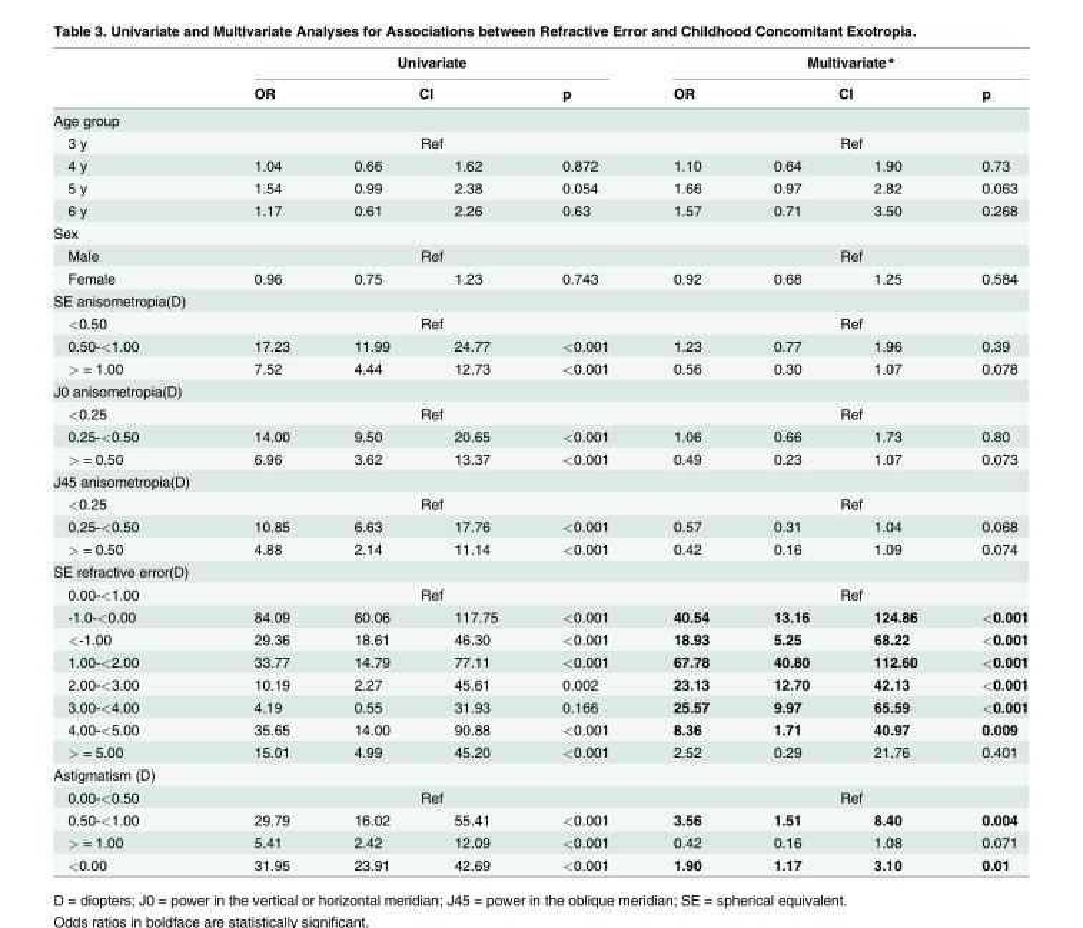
<table><thead><tr><td rowspan="3">Age group</td><td colspan="4">Univariate</td><td colspan="4">Multivariate*</td></tr><tr><td rowspan="2">OR</td><td colspan="2">CI</td><td rowspan="2">p</td><td rowspan="2">OR</td><td colspan="2">CI</td><td rowspan="2">p</td></tr><tr><td></td><td></td><td></td><td></td></tr></thead><tbody><tr><td>3 y</td><td colspan="4">Ref</td><td colspan="4">Ref</td></tr><tr><td>4 y</td><td>1.04</td><td>0.66</td><td>1.62</td><td>0.872</td><td>1.10</td><td>0.64</td><td>1.90</td><td>0.73</td></tr><tr><td>5 y</td><td>1.54</td><td>0.99</td><td>2.38</td><td>0.054</td><td>1.66</td><td>0.97</td><td>2.82</td><td>0.063</td></tr><tr><td>6 y</td><td>1.17</td><td>0.61</td><td>2.26</td><td>0.63</td><td>1.57</td><td>0.71</td><td>3.50</td><td>0.268</td></tr><tr><td colspan="9">Sex</td></tr><tr><td>Male</td><td colspan="4">Ref</td><td colspan="4">Ref</td></tr><tr><td>Female</td><td>0.96</td><td>0.75</td><td>1.23</td><td>0.743</td><td>0.92</td><td>0.68</td><td>1.25</td><td>0.584</td></tr><tr><td colspan="9">SE anisometropia(D)</td></tr><tr><td>&lt;0.50</td><td colspan="4">Ref</td><td colspan="4">Ref</td></tr><tr><td>0.50-&lt;1.00</td><td>17.23</td><td>11.99</td><td>24.77</td><td>&lt;0.001</td><td>1.23</td><td>0.77</td><td>1.96</td><td>0.39</td></tr><tr><td>&gt; = 1.00</td><td>7.52</td><td>4.44</td><td>12.73</td><td>&lt;0.001</td><td>0.56</td><td>0.30</td><td>1.07</td><td>0.078</td></tr><tr><td colspan="9">J0 anisometropia(D)</td></tr><tr><td>&lt;0.25</td><td colspan="4">Ref</td><td colspan="4">Ref</td></tr><tr><td>0.25-&lt;0.50</td><td>14.00</td><td>9.50</td><td>20.65</td><td>&lt;0.001</td><td>1.06</td><td>0.66</td><td>1.73</td><td>0.80</td></tr><tr><td>&gt; = 0.50</td><td>6.96</td><td>3.62</td><td>13.37</td><td>&lt;0.001</td><td>0.49</td><td>0.23</td><td>1.07</td><td>0.073</td></tr><tr><td colspan="9">J45 anisometropia(D)</td></tr><tr><td>&lt;0.25</td><td colspan="4">Ref</td><td colspan="4">Ref</td></tr><tr><td>0.25-&lt;0.50</td><td>10.85</td><td>6.63</td><td>17.76</td><td>&lt;0.001</td><td>0.57</td><td>0.31</td><td>1.04</td><td>0.068</td></tr><tr><td>&gt; = 0.50</td><td>4.88</td><td>2.14</td><td>11.14</td><td>&lt;0.001</td><td>0.42</td><td>0.16</td><td>1.09</td><td>0.074</td></tr><tr><td colspan="9">SE refractive error(D)</td></tr><tr><td>0.00-&lt;1.00</td><td colspan="4">Ref</td><td colspan="4">Ref</td></tr><tr><td>-1.0-&lt;0.00</td><td>84.09</td><td>60.06</td><td>117.75</td><td>&lt;0.001</td><td>40.54</td><td>13.16</td><td>124.86</td><td>&lt;0.001</td></tr><tr><td>&lt;-1.00</td><td>29.36</td><td>18.61</td><td>46.30</td><td>&lt;0.001</td><td>18.93</td><td>5.25</td><td>68.22</td><td>&lt;0.001</td></tr><tr><td>1.00-&lt;2.00</td><td>33.77</td><td>14.79</td><td>77.11</td><td>&lt;0.001</td><td>67.78</td><td>40.80</td><td>112.60</td><td>&lt;0.001</td></tr><tr><td>2.00-&lt;3.00</td><td>10.19</td><td>2.27</td><td>45.61</td><td>0.002</td><td>23.13</td><td>12.70</td><td>42.13</td><td>&lt;0.001</td></tr><tr><td>3.00-&lt;4.00</td><td>4.19</td><td>0.55</td><td>31.93</td><td>0.166</td><td>25.57</td><td>9.97</td><td>65.59</td><td>&lt;0.001</td></tr><tr><td>4.00-&lt;5.00</td><td>35.65</td><td>14.00</td><td>90.88</td><td>&lt;0.001</td><td>8.36</td><td>1.71</td><td>40.97</td><td>0.009</td></tr><tr><td>&gt; = 5.00</td><td>15.01</td><td>4.99</td><td>45.20</td><td>&lt;0.001</td><td>2.52</td><td>0.29</td><td>21.76</td><td>0.401</td></tr><tr><td colspan="9">Astigmatism (D)</td></tr><tr><td>0.00-&lt;0.50</td><td colspan="4">Ref</td><td colspan="4">Ref</td></tr><tr><td>0.50-&lt;1.00</td><td>29.79</td><td>16.02</td><td>55.41</td><td>&lt;0.001</td><td>3.56</td><td>1.51</td><td>8.40</td><td>0.004</td></tr><tr><td>&gt; = 1.00</td><td>5.41</td><td>2.42</td><td>12.09</td><td>&lt;0.001</td><td>0.42</td><td>0.16</td><td>1.08</td><td>0.071</td></tr><tr><td>&lt;0.00</td><td>31.95</td><td>23.91</td><td>42.69</td><td>&lt;0.001</td><td>1.90</td><td>1.17</td><td>3.10</td><td>0.01</td></tr></tbody></table>